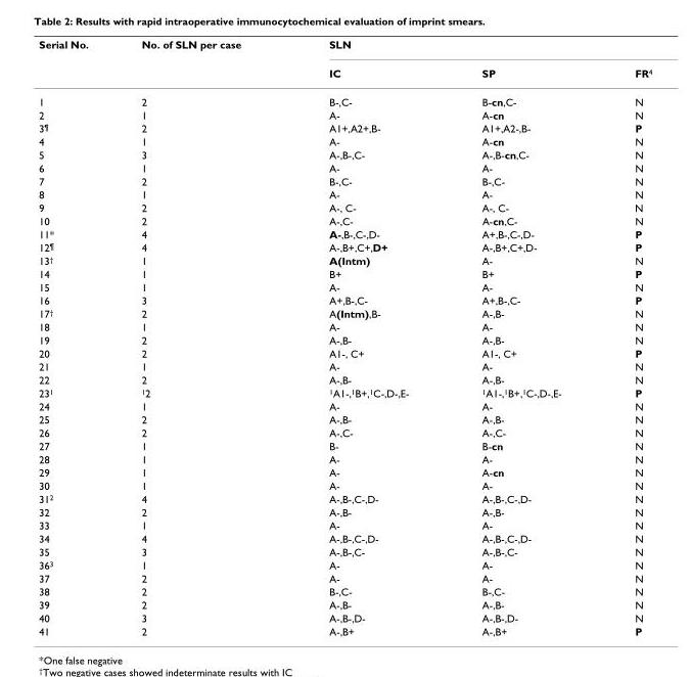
<table><thead><tr><td rowspan="2">Serial No.</td><td rowspan="2">No. of SLN per case</td><td colspan="3">SLN</td></tr><tr><td>IC</td><td>SP</td><td>FR<sup>4</sup></td></tr></thead><tbody><tr><td>1</td><td>2</td><td>B-,C-</td><td>B-cn,C-</td><td>N</td></tr><tr><td>2</td><td>1</td><td>A-</td><td>A-cn</td><td>N</td></tr><tr><td>3<sup>¶</sup></td><td>2</td><td>A1+,A2+,B-</td><td>A1+,A2-,B-</td><td>P</td></tr><tr><td>4</td><td>1</td><td>A-</td><td>A-cn</td><td>N</td></tr><tr><td>5</td><td>3</td><td>A-,B-,C-</td><td>A-,B-cn,C-</td><td>N</td></tr><tr><td>6</td><td>1</td><td>A-</td><td>A-</td><td>N</td></tr><tr><td>7</td><td>2</td><td>B-,C-</td><td>B-,C-</td><td>N</td></tr><tr><td>8</td><td>1</td><td>A-</td><td>A-</td><td>N</td></tr><tr><td>9</td><td>2</td><td>A-, C-</td><td>A-, C-</td><td>N</td></tr><tr><td>10</td><td>2</td><td>A-,C-</td><td>A-cn,C-</td><td>N</td></tr><tr><td>11*</td><td>4</td><td>A-,B-,C-,D-</td><td>A+,B-,C-,D-</td><td>P</td></tr><tr><td>12<sup>¶</sup></td><td>4</td><td>A-,B+,C+,D+</td><td>A-,B+,C+,D-</td><td>P</td></tr><tr><td>13<sup>†</sup></td><td>1</td><td>A(Intm)</td><td>A-</td><td>N</td></tr><tr><td>14</td><td>1</td><td>B+</td><td>B+</td><td>P</td></tr><tr><td>15</td><td>1</td><td>A-</td><td>A-</td><td>N</td></tr><tr><td>16</td><td>3</td><td>A+,B-,C-</td><td>A+,B-,C-</td><td>P</td></tr><tr><td>17<sup>†</sup></td><td>2</td><td>A(Intm),B-</td><td>A-,B-</td><td>N</td></tr><tr><td>18</td><td>1</td><td>A-</td><td>A-</td><td>N</td></tr><tr><td>19</td><td>2</td><td>A-,B-</td><td>A-,B-</td><td>N</td></tr><tr><td>20</td><td>2</td><td>A1-, C+</td><td>A1-, C+</td><td>P</td></tr><tr><td>21</td><td>1</td><td>A-</td><td>A-</td><td>N</td></tr><tr><td>22</td><td>2</td><td>A-,B-</td><td>A-,B-</td><td>N</td></tr><tr><td>23<sup>1</sup></td><td><sup>1</sup>2</td><td><sup>1</sup>A1-,<sup>1</sup>B+,<sup>1</sup>C-,D-,E-</td><td><sup>1</sup>A1-,<sup>1</sup>B+,<sup>1</sup>C-,D-,E-</td><td>P</td></tr><tr><td>24</td><td>1</td><td>A-</td><td>A-</td><td>N</td></tr><tr><td>25</td><td>2</td><td>A-,B-</td><td>A-,B-</td><td>N</td></tr><tr><td>26</td><td>2</td><td>A-,C-</td><td>A-,C-</td><td>N</td></tr><tr><td>27</td><td>1</td><td>B-</td><td>B-cn</td><td>N</td></tr><tr><td>28</td><td>1</td><td>A-</td><td>A-</td><td>N</td></tr><tr><td>29</td><td>1</td><td>A-</td><td>A-cn</td><td>N</td></tr><tr><td>30</td><td>1</td><td>A-</td><td>A-</td><td>N</td></tr><tr><td>31<sup>2</sup></td><td>4</td><td>A-,B-,C-,D-</td><td>A-,B-,C-,D-</td><td>N</td></tr><tr><td>32</td><td>2</td><td>A-,B-</td><td>A-,B-</td><td>N</td></tr><tr><td>33</td><td>1</td><td>A-</td><td>A-</td><td>N</td></tr><tr><td>34</td><td>4</td><td>A-,B-,C-,D-</td><td>A-,B-,C-,D-</td><td>N</td></tr><tr><td>35</td><td>3</td><td>A-,B-,C-</td><td>A-,B-,C-</td><td>N</td></tr><tr><td>36<sup>3</sup></td><td>1</td><td>A-</td><td>A-</td><td>N</td></tr><tr><td>37</td><td>2</td><td>A-</td><td>A-</td><td>N</td></tr><tr><td>38</td><td>2</td><td>B-,C-</td><td>B-,C-</td><td>N</td></tr><tr><td>39</td><td>2</td><td>A-,B-</td><td>A-,B-</td><td>N</td></tr><tr><td>40</td><td>3</td><td>A-,B-,D-</td><td>A-,B-,D-</td><td>N</td></tr><tr><td>41</td><td>2</td><td>A-,B+</td><td>A-,B+</td><td>P</td></tr></tbody></table>